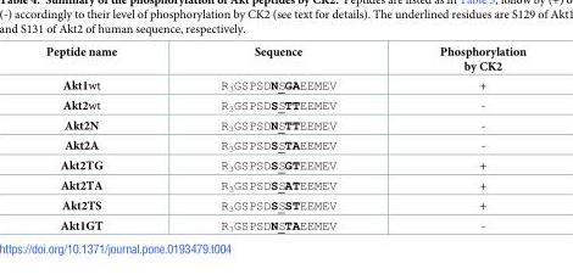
<table><thead><tr><td>Peptide name</td><td>Sequence</td><td>Phosphorylation by CK2</td></tr></thead><tbody><tr><td>Akt1wt</td><td>R<sub>3</sub>GSPSDNSGAEEMEV</td><td>+</td></tr><tr><td>Akt2wt</td><td>R<sub>3</sub>GSPSDSSTTEEMEV</td><td>-</td></tr><tr><td>Akt2N</td><td>R<sub>3</sub>GSPSDNSTTEEMEV</td><td>-</td></tr><tr><td>Akt2A</td><td>R<sub>3</sub>GSPSDSSTAEEMEV</td><td>-</td></tr><tr><td>Akt2TG</td><td>R<sub>3</sub>GSPSDSSGTEEMEV</td><td>+</td></tr><tr><td>Akt2TA</td><td>R<sub>3</sub>GSPSDSSATEEMEV</td><td>+</td></tr><tr><td>Akt2TS</td><td>R<sub>3</sub>GSPSDSSSTEEMEV</td><td>+</td></tr><tr><td>Akt1GT</td><td>R<sub>3</sub>GSPSDNSTAEEMEV</td><td>-</td></tr></tbody></table>